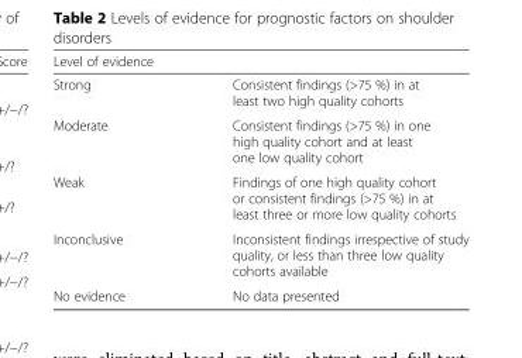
<table><thead><tr><td>Level of evidence</td><td></td></tr></thead><tbody><tr><td>Strong</td><td>Consistent findings (&gt;75 %) in at least two high quality cohorts</td></tr><tr><td>Moderate</td><td>Consistent findings (&gt;75 %) in one high quality cohort and at least one low quality cohort</td></tr><tr><td>Weak</td><td>Findings of one high quality cohort or consistent findings (&gt;75 %) in at least three or more low quality cohorts</td></tr><tr><td>Inconclusive</td><td>Inconsistent findings irrespective of study quality, or less than three low quality cohorts available</td></tr><tr><td>No evidence</td><td>No data presented</td></tr></tbody></table>